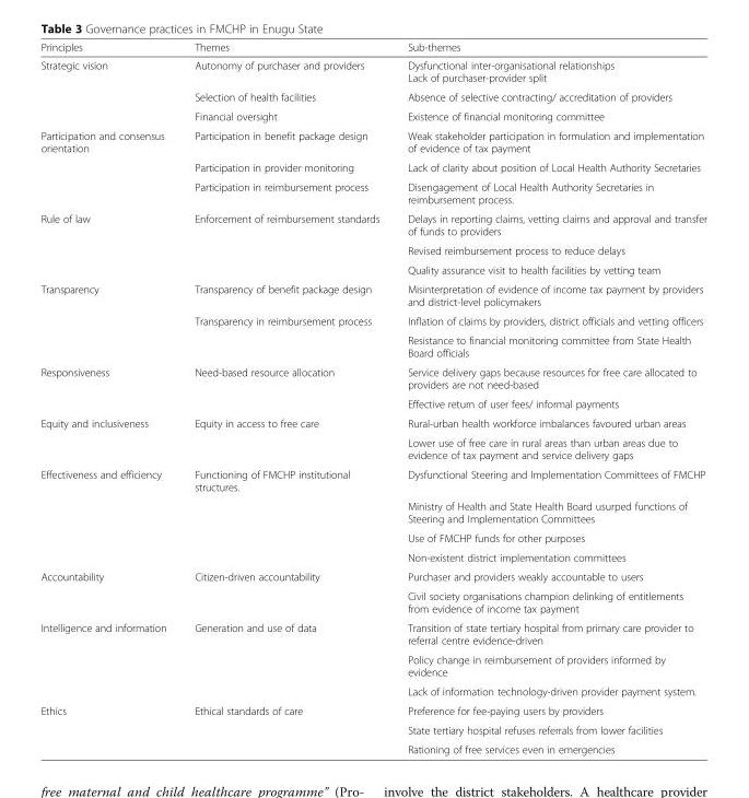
<table><thead><tr><td>Principles</td><td>Themes</td><td>Sub-themes</td></tr></thead><tbody><tr><td rowspan="3">Strategic vision</td><td>Autonomy of purchaser and providers</td><td>Dysfunctional inter-organisational relationships Lack of purchaser-provider split</td></tr><tr><td>Selection of health facilities</td><td>Absence of selective contracting/ accreditation of providers</td></tr><tr><td>Financial oversight</td><td>Existence of financial monitoring committee</td></tr><tr><td rowspan="3">Participation and consensus orientation</td><td>Participation in benefit package design</td><td>Weak stakeholder participation in formulation and implementation of evidence of tax payment</td></tr><tr><td>Participation in provider monitoring</td><td>Lack of clarity about position of Local Health Authority Secretaries</td></tr><tr><td>Participation in reimbursement process</td><td>Disengagement of Local Health Authority Secretaries in reimbursement process.</td></tr><tr><td rowspan="3">Rule of law</td><td>Enforcement of reimbursement standards</td><td>Delays in reporting claims, vetting claims and approval and transfer of funds to providers</td></tr><tr><td></td><td>Revised reimbursement process to reduce delays</td></tr><tr><td></td><td>Quality assurance visit to health facilities by vetting team</td></tr><tr><td rowspan="3">Transparency</td><td>Transparency of benefit package design</td><td>Misinterpretation of evidence of income tax payment by providers and district-level policymakers</td></tr><tr><td>Transparency in reimbursement process</td><td>Inflation of claims by providers, district officials and vetting officers</td></tr><tr><td></td><td>Resistance to financial monitoring committee from State Health Board officials</td></tr><tr><td rowspan="2">Responsiveness</td><td>Need-based resource allocation</td><td>Service delivery gaps because resources for free care allocated to providers are not need-based</td></tr><tr><td></td><td>Effective return of user fees/ informal payments</td></tr><tr><td rowspan="2">Equity and inclusiveness</td><td>Equity in access to free care</td><td>Rural-urban health workforce imbalances favoured urban areas</td></tr><tr><td></td><td>Lower use of free care in rural areas than urban areas due to evidence of tax payment and service delivery gaps</td></tr><tr><td rowspan="4">Effectiveness and efficiency</td><td>Functioning of FMCHP institutional structures.</td><td>Dysfunctional Steering and Implementation Committees of FMCHP</td></tr><tr><td></td><td>Ministry of Health and State Health Board usurped functions of Steering and Implementation Committees</td></tr><tr><td></td><td>Use of FMCHP funds for other purposes</td></tr><tr><td></td><td>Non-existent district implementation committees</td></tr><tr><td rowspan="2">Accountability</td><td>Citizen-driven accountability</td><td>Purchaser and providers weakly accountable to users</td></tr><tr><td></td><td>Civil society organisations champion delinking of entitlements from evidence of income tax payment</td></tr><tr><td rowspan="3">Intelligence and information</td><td>Generation and use of data</td><td>Transition of state tertiary hospital from primary care provider to referral centre evidence-driven</td></tr><tr><td></td><td>Policy change in reimbursement of providers informed by evidence</td></tr><tr><td></td><td>Lack of information technology-driven provider payment system.</td></tr><tr><td rowspan="3">Ethics</td><td>Ethical standards of care</td><td>Preference for fee-paying users by providers</td></tr><tr><td></td><td>State tertiary hospital refuses referrals from lower facilities</td></tr><tr><td></td><td>Rationing of free services even in emergencies</td></tr></tbody></table>